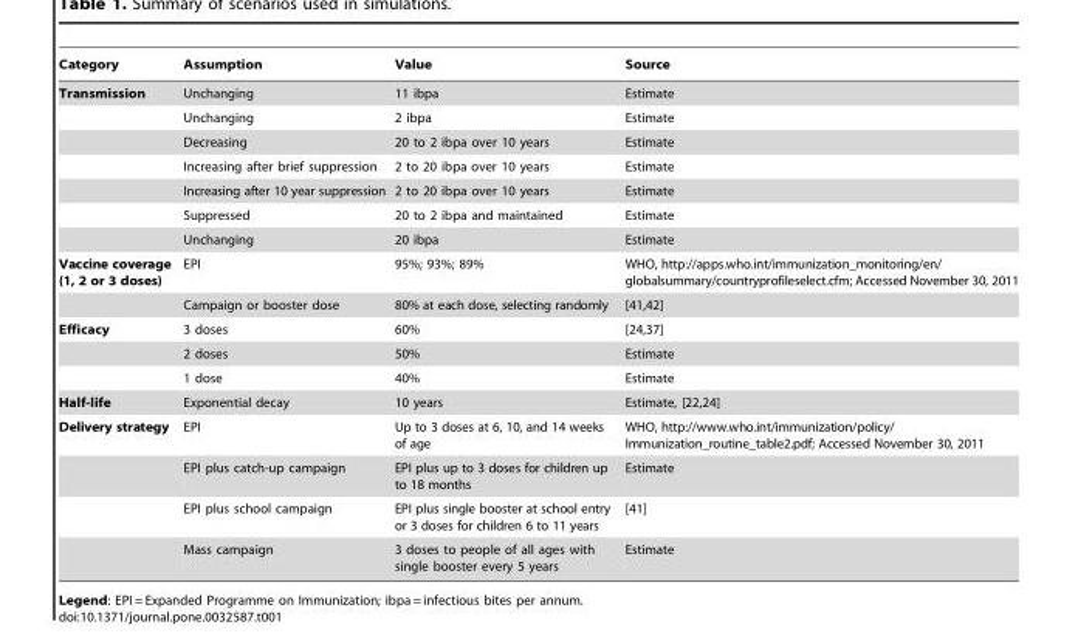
<table><thead><tr><td>Category</td><td>Assumption</td><td>Value</td><td>Source</td></tr></thead><tbody><tr><td rowspan="7">Transmission</td><td>Unchanging</td><td>11 ibpa</td><td>Estimate</td></tr><tr><td>Unchanging</td><td>2 ibpa</td><td>Estimate</td></tr><tr><td>Decreasing</td><td>20 to 2 ibpa over 10 years</td><td>Estimate</td></tr><tr><td>Increasing after brief suppression</td><td>2 to 20 ibpa over 10 years</td><td>Estimate</td></tr><tr><td>Increasing after 10 year suppression</td><td>2 to 20 ibpa over 10 years</td><td>Estimate</td></tr><tr><td>Suppressed</td><td>20 to 2 ibpa and maintained</td><td>Estimate</td></tr><tr><td>Unchanging</td><td>20 ibpa</td><td>Estimate</td></tr><tr><td rowspan="2">Vaccine coverage (1, 2 or 3 doses)</td><td>EPI</td><td>95%; 93%; 89%</td><td>WHO, http://apps.who.int/immunization_monitoring/en/ globalsummary/countryprofileselect.cfm; Accessed November 30, 2011</td></tr><tr><td>Campaign or booster dose</td><td>80% at each dose, selecting randomly</td><td>[41,42]</td></tr><tr><td rowspan="3">Efficacy</td><td>3 doses</td><td>60%</td><td>[24,37]</td></tr><tr><td>2 doses</td><td>50%</td><td>Estimate</td></tr><tr><td>1 dose</td><td>40%</td><td>Estimate</td></tr><tr><td>Half-life</td><td>Exponential decay</td><td>10 years</td><td>Estimate, [22,24]</td></tr><tr><td rowspan="4">Delivery strategy</td><td>EPI</td><td>Up to 3 doses at 6, 10, and 14 weeks of age</td><td>WHO, http://www.who.int/immunization/policy/ Immunization_routine_table2.pdf; Accessed November 30, 2011</td></tr><tr><td>EPI plus catch-up campaign</td><td>EPI plus up to 3 doses for children up to 18 months</td><td>Estimate</td></tr><tr><td>EPI plus school campaign</td><td>EPI plus single booster at school entry or 3 doses for children 6 to 11 years</td><td>[41]</td></tr><tr><td>Mass campaign</td><td>3 doses to people of all ages with single booster every 5 years</td><td>Estimate</td></tr></tbody></table>